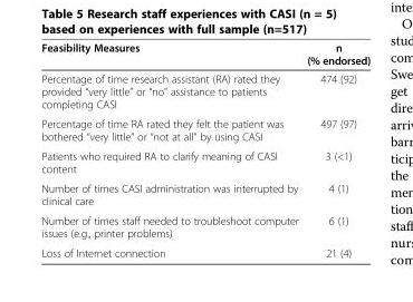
<table><thead><tr><td>Feasibility Measures</td><td>n (% endorsed)</td></tr></thead><tbody><tr><td>Percentage of time research assistant (RA) rated they provided “very little” or “no” assistance to patients completing CASI</td><td>474 (92)</td></tr><tr><td>Percentage of time RA rated they felt the patient was bothered “very little” or “not at all” by using CASI</td><td>497 (97)</td></tr><tr><td>Patients who required RA to clarify meaning of CASI content</td><td>3 (&lt;1)</td></tr><tr><td>Number of times CASI administration was interrupted by clinical care</td><td>4 (1)</td></tr><tr><td>Number of times staff needed to troubleshoot computer issues (e.g., printer problems)</td><td>6 (1)</td></tr><tr><td>Loss of Internet connection</td><td>21 (4)</td></tr></tbody></table>